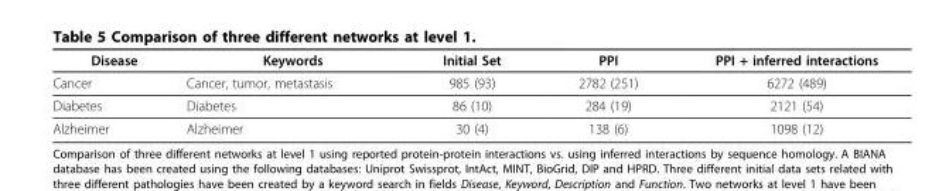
<table><thead><tr><td>Disease</td><td>Keywords</td><td>Initial Set</td><td>PPI</td><td>PPI + inferred interactions</td></tr></thead><tbody><tr><td>Cancer</td><td>Cancer, tumor, metastasis</td><td>985 (93)</td><td>2782 (251)</td><td>6272 (489)</td></tr><tr><td>Diabetes</td><td>Diabetes</td><td>86 (10)</td><td>284 (19)</td><td>2121 (54)</td></tr><tr><td>Alzheimer</td><td>Alzheimer</td><td>30 (4)</td><td>138 (6)</td><td>1098 (12)</td></tr></tbody></table>